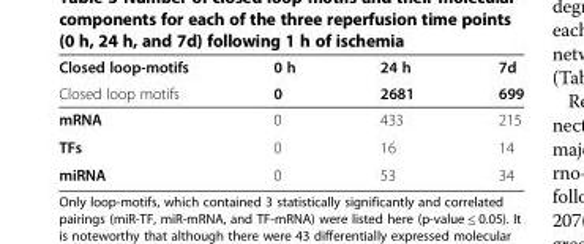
<table><thead><tr><td rowspan="2">Closed loop-motifs Closed loop motifs</td><td rowspan="2">0 h 0</td><td rowspan="2">24 h 2681</td><td rowspan="2">7d 699</td></tr><tr></tr></thead><tbody><tr><td>mRNA</td><td>0</td><td>433</td><td>215</td></tr><tr><td>TFs</td><td>0</td><td>16</td><td>14</td></tr><tr><td>miRNA</td><td>0</td><td>53</td><td>34</td></tr></tbody></table>